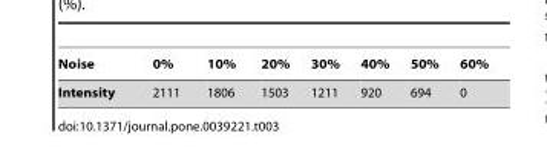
<table><thead><tr><td>Noise</td><td>0%</td><td>10%</td><td>20%</td><td>30%</td><td>40%</td><td>50%</td><td>60%</td></tr></thead><tbody><tr><td>Intensity</td><td>2111</td><td>1806</td><td>1503</td><td>1211</td><td>920</td><td>694</td><td>0</td></tr></tbody></table>